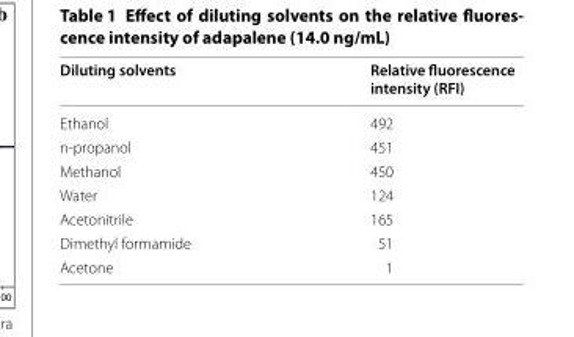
<table><thead><tr><td>Diluting solvents</td><td>Relative fluorescence intensity (RFI)</td></tr></thead><tbody><tr><td>Ethanol</td><td>492</td></tr><tr><td>n‑propanol</td><td>451</td></tr><tr><td>Methanol</td><td>450</td></tr><tr><td>Water</td><td>124</td></tr><tr><td>Acetonitrile</td><td>165</td></tr><tr><td>Dimethyl formamide</td><td>51</td></tr><tr><td>Acetone</td><td>1</td></tr></tbody></table>